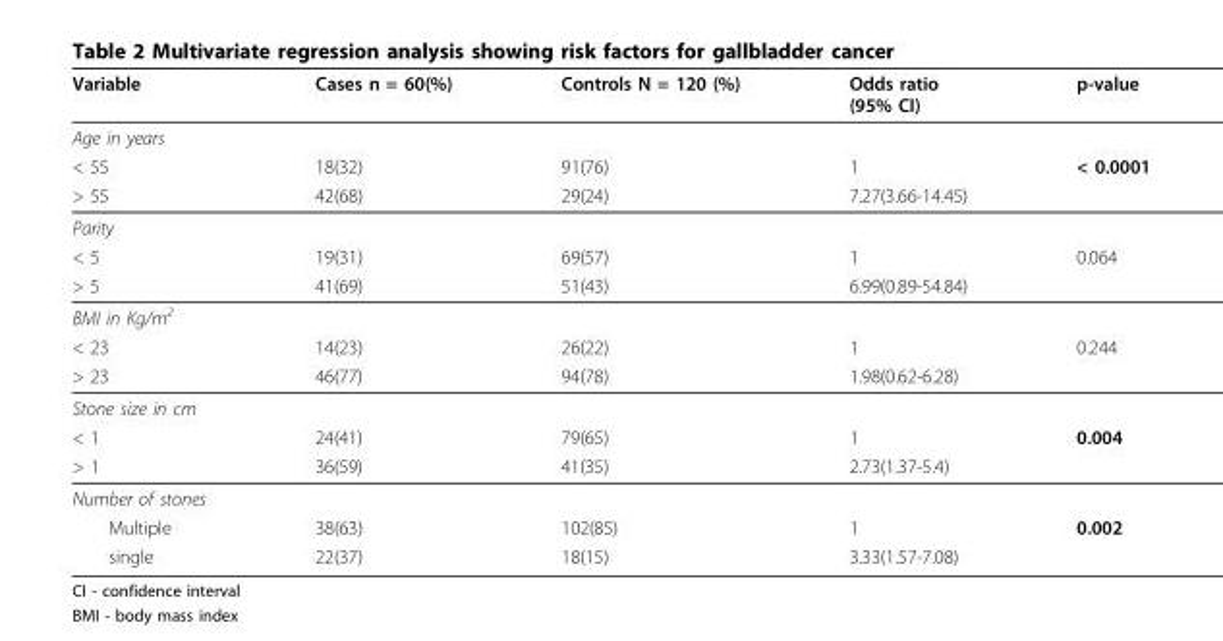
<table><thead><tr><td>Variable</td><td>Cases n = 60(%)</td><td>Controls N = 120 (%)</td><td>Odds ratio (95% CI)</td><td>p-value</td></tr></thead><tbody><tr><td colspan="5">Age in years</td></tr><tr><td>&lt; 55</td><td>18(32)</td><td>91(76)</td><td>1</td><td>&lt; 0.0001</td></tr><tr><td>&gt; 55</td><td>42(68)</td><td>29(24)</td><td>7.27(3.66-14.45)</td><td></td></tr><tr><td colspan="5">Parity</td></tr><tr><td>&lt; 5</td><td>19(31)</td><td>69(57)</td><td>1</td><td>0.064</td></tr><tr><td>&gt; 5</td><td>41(69)</td><td>51(43)</td><td>6.99(0.89-54.84)</td><td></td></tr><tr><td colspan="5">BMI in Kg/m<sup>2</sup></td></tr><tr><td>&lt; 23</td><td>14(23)</td><td>26(22)</td><td>1</td><td>0.244</td></tr><tr><td>&gt; 23</td><td>46(77)</td><td>94(78)</td><td>1.98(0.62-6.28)</td><td></td></tr><tr><td colspan="5">Stone size in cm</td></tr><tr><td>&lt; 1</td><td>24(41)</td><td>79(65)</td><td>1</td><td>0.004</td></tr><tr><td>&gt; 1</td><td>36(59)</td><td>41(35)</td><td>2.73(1.37-5.4)</td><td></td></tr><tr><td colspan="5">Number of stones</td></tr><tr><td>Multiple</td><td>38(63)</td><td>102(85)</td><td>1</td><td>0.002</td></tr><tr><td>single</td><td>22(37)</td><td>18(15)</td><td>3.33(1.57-7.08)</td><td></td></tr></tbody></table>